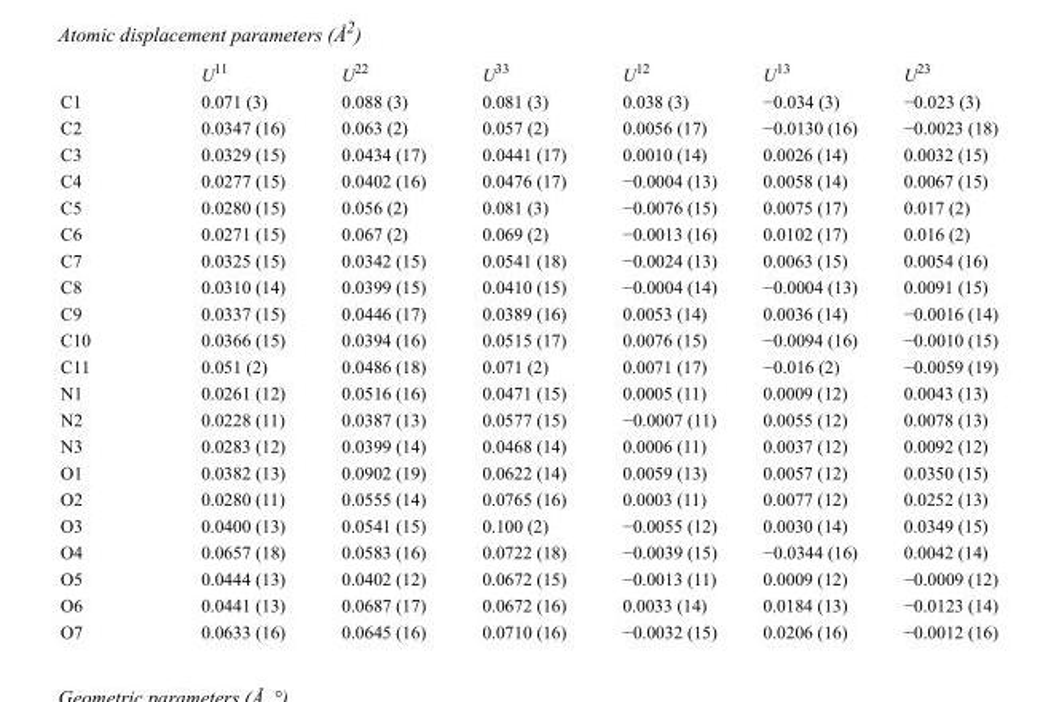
<table><thead><tr><td></td><td>U<sup>11</sup></td><td>U<sup>22</sup></td><td>U<sup>33</sup></td><td>U<sup>12</sup></td><td>U<sup>13</sup></td><td>U<sup>23</sup></td></tr></thead><tbody><tr><td>C1</td><td>0.071 (3)</td><td>0.088 (3)</td><td>0.081 (3)</td><td>0.038 (3)</td><td>−0.034 (3)</td><td>−0.023 (3)</td></tr><tr><td>C2</td><td>0.0347 (16)</td><td>0.063 (2)</td><td>0.057 (2)</td><td>0.0056 (17)</td><td>−0.0130 (16)</td><td>−0.0023 (18)</td></tr><tr><td>C3</td><td>0.0329 (15)</td><td>0.0434 (17)</td><td>0.0441 (17)</td><td>0.0010 (14)</td><td>0.0026 (14)</td><td>0.0032 (15)</td></tr><tr><td>C4</td><td>0.0277 (15)</td><td>0.0402 (16)</td><td>0.0476 (17)</td><td>−0.0004 (13)</td><td>0.0058 (14)</td><td>0.0067 (15)</td></tr><tr><td>C5</td><td>0.0280 (15)</td><td>0.056 (2)</td><td>0.081 (3)</td><td>−0.0076 (15)</td><td>0.0075 (17)</td><td>0.017 (2)</td></tr><tr><td>C6</td><td>0.0271 (15)</td><td>0.067 (2)</td><td>0.069 (2)</td><td>−0.0013 (16)</td><td>0.0102 (17)</td><td>0.016 (2)</td></tr><tr><td>C7</td><td>0.0325 (15)</td><td>0.0342 (15)</td><td>0.0541 (18)</td><td>−0.0024 (13)</td><td>0.0063 (15)</td><td>0.0054 (16)</td></tr><tr><td>C8</td><td>0.0310 (14)</td><td>0.0399 (15)</td><td>0.0410 (15)</td><td>−0.0004 (14)</td><td>−0.0004 (13)</td><td>0.0091 (15)</td></tr><tr><td>C9</td><td>0.0337 (15)</td><td>0.0446 (17)</td><td>0.0389 (16)</td><td>0.0053 (14)</td><td>0.0036 (14)</td><td>−0.0016 (14)</td></tr><tr><td>C10</td><td>0.0366 (15)</td><td>0.0394 (16)</td><td>0.0515 (17)</td><td>0.0076 (15)</td><td>−0.0094 (16)</td><td>−0.0010 (15)</td></tr><tr><td>C11</td><td>0.051 (2)</td><td>0.0486 (18)</td><td>0.071 (2)</td><td>0.0071 (17)</td><td>−0.016 (2)</td><td>−0.0059 (19)</td></tr><tr><td>N1</td><td>0.0261 (12)</td><td>0.0516 (16)</td><td>0.0471 (15)</td><td>0.0005 (11)</td><td>0.0009 (12)</td><td>0.0043 (13)</td></tr><tr><td>N2</td><td>0.0228 (11)</td><td>0.0387 (13)</td><td>0.0577 (15)</td><td>−0.0007 (11)</td><td>0.0055 (12)</td><td>0.0078 (13)</td></tr><tr><td>N3</td><td>0.0283 (12)</td><td>0.0399 (14)</td><td>0.0468 (14)</td><td>0.0006 (11)</td><td>0.0037 (12)</td><td>0.0092 (12)</td></tr><tr><td>O1</td><td>0.0382 (13)</td><td>0.0902 (19)</td><td>0.0622 (14)</td><td>0.0059 (13)</td><td>0.0057 (12)</td><td>0.0350 (15)</td></tr><tr><td>O2</td><td>0.0280 (11)</td><td>0.0555 (14)</td><td>0.0765 (16)</td><td>0.0003 (11)</td><td>0.0077 (12)</td><td>0.0252 (13)</td></tr><tr><td>O3</td><td>0.0400 (13)</td><td>0.0541 (15)</td><td>0.100 (2)</td><td>−0.0055 (12)</td><td>0.0030 (14)</td><td>0.0349 (15)</td></tr><tr><td>O4</td><td>0.0657 (18)</td><td>0.0583 (16)</td><td>0.0722 (18)</td><td>−0.0039 (15)</td><td>−0.0344 (16)</td><td>0.0042 (14)</td></tr><tr><td>O5</td><td>0.0444 (13)</td><td>0.0402 (12)</td><td>0.0672 (15)</td><td>−0.0013 (11)</td><td>0.0009 (12)</td><td>−0.0009 (12)</td></tr><tr><td>O6</td><td>0.0441 (13)</td><td>0.0687 (17)</td><td>0.0672 (16)</td><td>0.0033 (14)</td><td>0.0184 (13)</td><td>−0.0123 (14)</td></tr><tr><td>O7</td><td>0.0633 (16)</td><td>0.0645 (16)</td><td>0.0710 (16)</td><td>−0.0032 (15)</td><td>0.0206 (16)</td><td>−0.0012 (16)</td></tr></tbody></table>